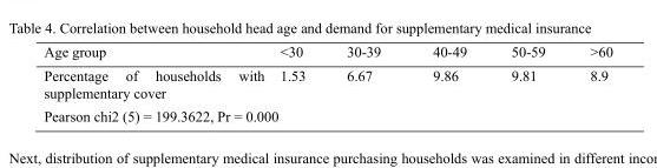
<table><thead><tr><td>Age group</td><td>&lt;30</td><td>30-39</td><td>40-49</td><td>50-59</td><td>&gt;60</td></tr></thead><tbody><tr><td>Percentage of households with supplementary cover</td><td>1.53</td><td>6.67</td><td>9.86</td><td>9.81</td><td>8.9</td></tr><tr><td colspan="6">Pearson chi2 (5) = 199.3622, Pr = 0.000</td></tr></tbody></table>